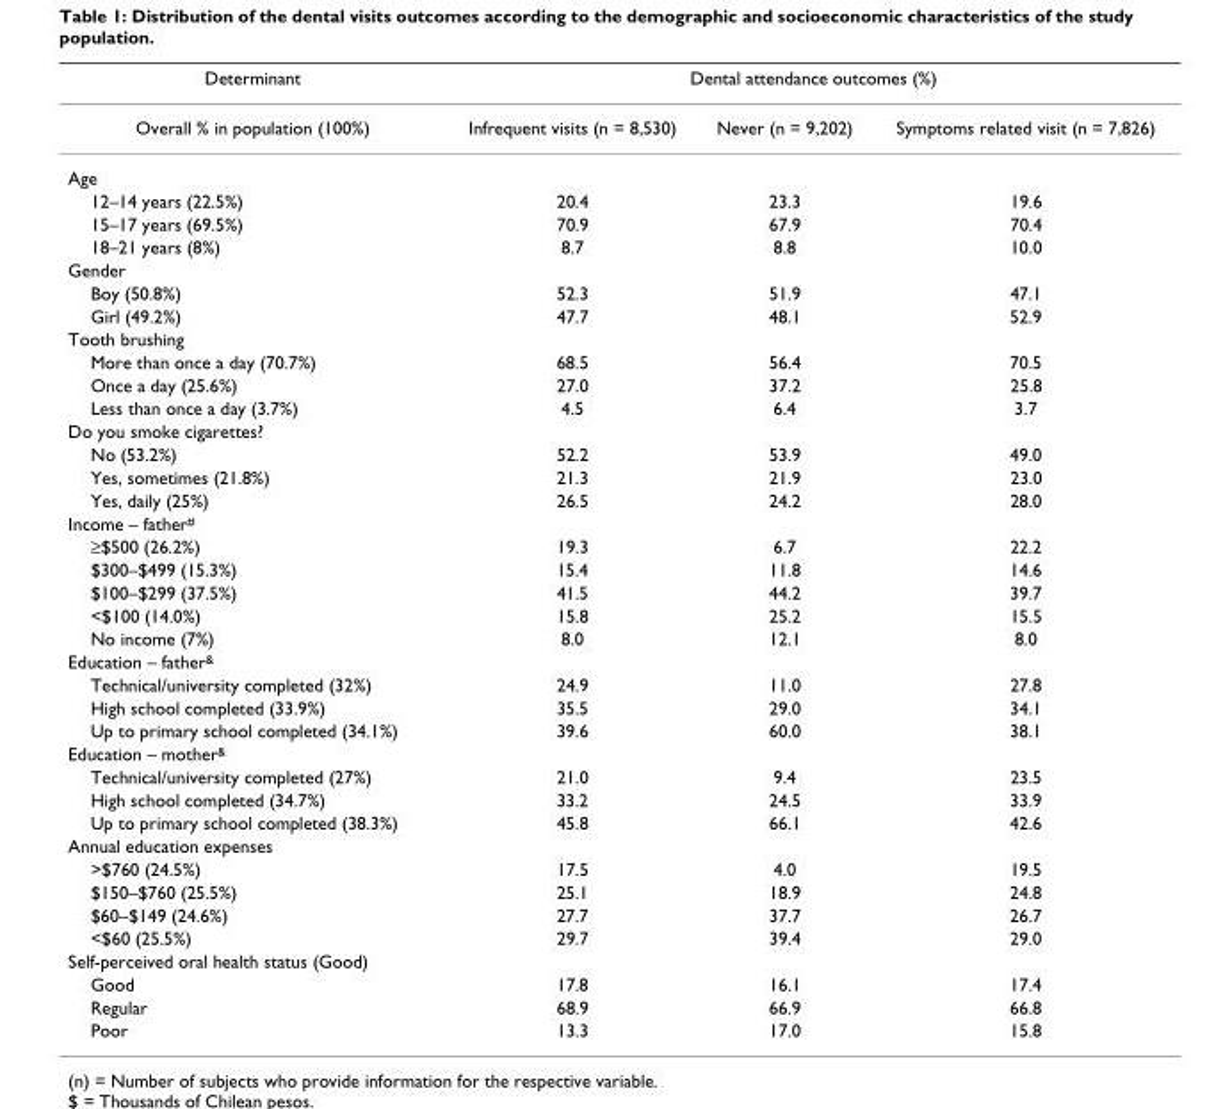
<table><thead><tr><td rowspan="2">Determinant Overall % in population (100%)</td><td colspan="3">Dental attendance outcomes (%)</td></tr><tr><td>Infrequent visits (n = 8,530)</td><td>Never (n = 9,202)</td><td>Symptoms related visit (n = 7,826)</td></tr></thead><tbody><tr><td colspan="4">Age</td></tr><tr><td>12–14 years (22.5%)</td><td>20.4</td><td>23.3</td><td>19.6</td></tr><tr><td>15–17 years (69.5%)</td><td>70.9</td><td>67.9</td><td>70.4</td></tr><tr><td>18–21 years (8%)</td><td>8.7</td><td>8.8</td><td>10.0</td></tr><tr><td colspan="4">Gender</td></tr><tr><td>Boy (50.8%)</td><td>52.3</td><td>51.9</td><td>47.1</td></tr><tr><td>Girl (49.2%)</td><td>47.7</td><td>48.1</td><td>52.9</td></tr><tr><td colspan="4">Tooth brushing</td></tr><tr><td>More than once a day (70.7%)</td><td>68.5</td><td>56.4</td><td>70.5</td></tr><tr><td>Once a day (25.6%)</td><td>27.0</td><td>37.2</td><td>25.8</td></tr><tr><td>Less than once a day (3.7%)</td><td>4.5</td><td>6.4</td><td>3.7</td></tr><tr><td colspan="4">Do you smoke cigarettes?</td></tr><tr><td>No (53.2%)</td><td>52.2</td><td>53.9</td><td>49.0</td></tr><tr><td>Yes, sometimes (21.8%)</td><td>21.3</td><td>21.9</td><td>23.0</td></tr><tr><td>Yes, daily (25%)</td><td>26.5</td><td>24.2</td><td>28.0</td></tr><tr><td colspan="4">Income – father<sup>#</sup></td></tr><tr><td>≥$500 (26.2%)</td><td>19.3</td><td>6.7</td><td>22.2</td></tr><tr><td>$300–$499 (15.3%)</td><td>15.4</td><td>11.8</td><td>14.6</td></tr><tr><td>$100–$299 (37.5%)</td><td>41.5</td><td>44.2</td><td>39.7</td></tr><tr><td>&lt;$100 (14.0%)</td><td>15.8</td><td>25.2</td><td>15.5</td></tr><tr><td>No income (7%)</td><td>8.0</td><td>12.1</td><td>8.0</td></tr><tr><td colspan="4">Education – father<sup>&amp;</sup></td></tr><tr><td>Technical/university completed (32%)</td><td>24.9</td><td>11.0</td><td>27.8</td></tr><tr><td>High school completed (33.9%)</td><td>35.5</td><td>29.0</td><td>34.1</td></tr><tr><td>Up to primary school completed (34.1%)</td><td>39.6</td><td>60.0</td><td>38.1</td></tr><tr><td colspan="4">Education – mother<sup>&amp;</sup></td></tr><tr><td>Technical/university completed (27%)</td><td>21.0</td><td>9.4</td><td>23.5</td></tr><tr><td>High school completed (34.7%)</td><td>33.2</td><td>24.5</td><td>33.9</td></tr><tr><td>Up to primary school completed (38.3%)</td><td>45.8</td><td>66.1</td><td>42.6</td></tr><tr><td colspan="4">Annual education expenses</td></tr><tr><td>&gt;$760 (24.5%)</td><td>17.5</td><td>4.0</td><td>19.5</td></tr><tr><td>$150–$760 (25.5%)</td><td>25.1</td><td>18.9</td><td>24.8</td></tr><tr><td>$60–$149 (24.6%)</td><td>27.7</td><td>37.7</td><td>26.7</td></tr><tr><td>&lt;$60 (25.5%)</td><td>29.7</td><td>39.4</td><td>29.0</td></tr><tr><td colspan="4">Self-perceived oral health status (Good)</td></tr><tr><td>Good</td><td>17.8</td><td>16.1</td><td>17.4</td></tr><tr><td>Regular</td><td>68.9</td><td>66.9</td><td>66.8</td></tr><tr><td>Poor</td><td>13.3</td><td>17.0</td><td>15.8</td></tr></tbody></table>